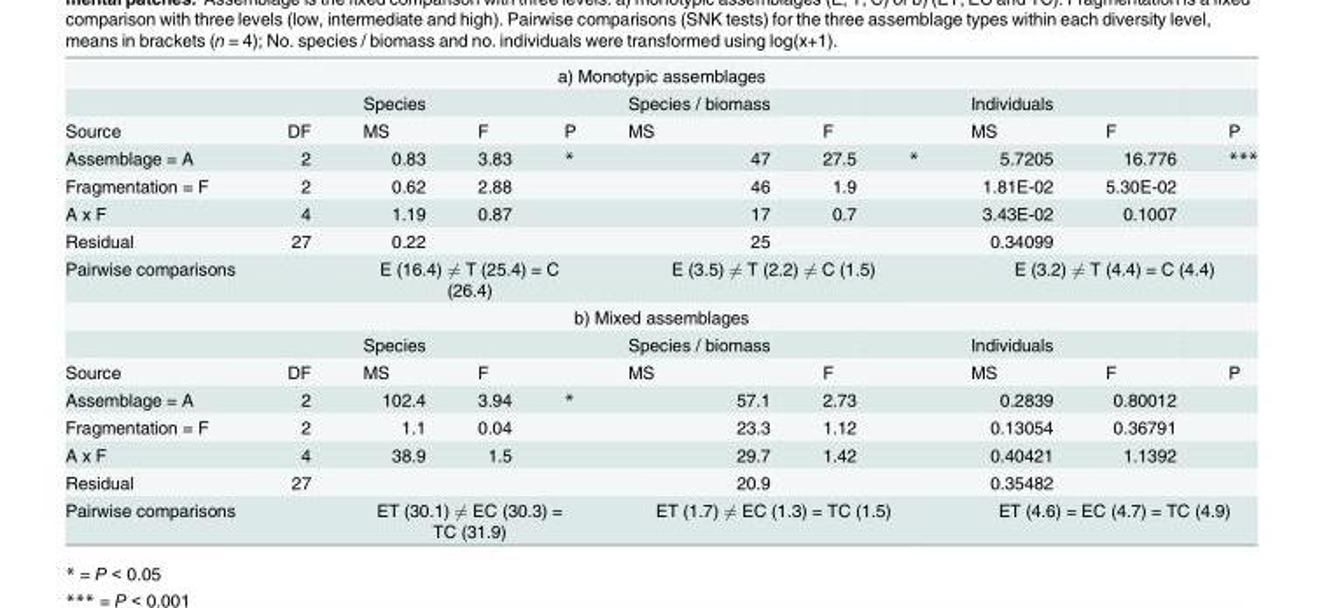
<table><tbody><tr><td colspan="11">a) Monotypic assemblages</td></tr><tr><td></td><td></td><td>Species</td><td></td><td></td><td>Species / biomass</td><td></td><td></td><td>Individuals</td><td></td><td></td></tr><tr><td>Source</td><td>DF</td><td>MS</td><td>F</td><td>P</td><td>MS</td><td>F</td><td></td><td>MS</td><td>F</td><td>P</td></tr><tr><td>Assemblage = A</td><td>2</td><td>0.83</td><td>3.83</td><td>*</td><td>47</td><td>27.5</td><td>*</td><td>5.7205</td><td>16.776</td><td>***</td></tr><tr><td>Fragmentation = F</td><td>2</td><td>0.62</td><td>2.88</td><td></td><td>46</td><td>1.9</td><td></td><td>1.81E-02</td><td>5.30E-02</td><td></td></tr><tr><td>A x F</td><td>4</td><td>1.19</td><td>0.87</td><td></td><td>17</td><td>0.7</td><td></td><td>3.43E-02</td><td>0.1007</td><td></td></tr><tr><td>Residual</td><td>27</td><td>0.22</td><td></td><td></td><td>25</td><td></td><td></td><td>0.34099</td><td></td><td></td></tr><tr><td>Pairwise comparisons</td><td></td><td colspan="3">E (16.4) 6¼ T (25.4) = C (26.4)</td><td colspan="3">E (3.5) 6¼ T (2.2) 6¼ C (1.5)</td><td colspan="3">E (3.2) 6¼ T (4.4) = C (4.4)</td></tr><tr><td colspan="11">b) Mixed assemblages</td></tr><tr><td></td><td></td><td>Species</td><td></td><td></td><td>Species / biomass</td><td></td><td></td><td>Individuals</td><td></td><td></td></tr><tr><td>Source</td><td>DF</td><td>MS</td><td>F</td><td></td><td>MS</td><td>F</td><td></td><td>MS</td><td>F</td><td>P</td></tr><tr><td>Assemblage = A</td><td>2</td><td>102.4</td><td>3.94</td><td>*</td><td>57.1</td><td>2.73</td><td></td><td>0.2839</td><td>0.80012</td><td></td></tr><tr><td>Fragmentation = F</td><td>2</td><td>1.1</td><td>0.04</td><td></td><td>23.3</td><td>1.12</td><td></td><td>0.13054</td><td>0.36791</td><td></td></tr><tr><td>A x F</td><td>4</td><td>38.9</td><td>1.5</td><td></td><td>29.7</td><td>1.42</td><td></td><td>0.40421</td><td>1.1392</td><td></td></tr><tr><td>Residual</td><td>27</td><td></td><td></td><td></td><td>20.9</td><td></td><td></td><td>0.35482</td><td></td><td></td></tr><tr><td>Pairwise comparisons</td><td></td><td colspan="3">ET (30.1) 6¼ EC (30.3) = TC (31.9)</td><td colspan="3">ET (1.7) 6¼ EC (1.3) = TC (1.5)</td><td colspan="3">ET (4.6) = EC (4.7) = TC (4.9)</td></tr></tbody></table>